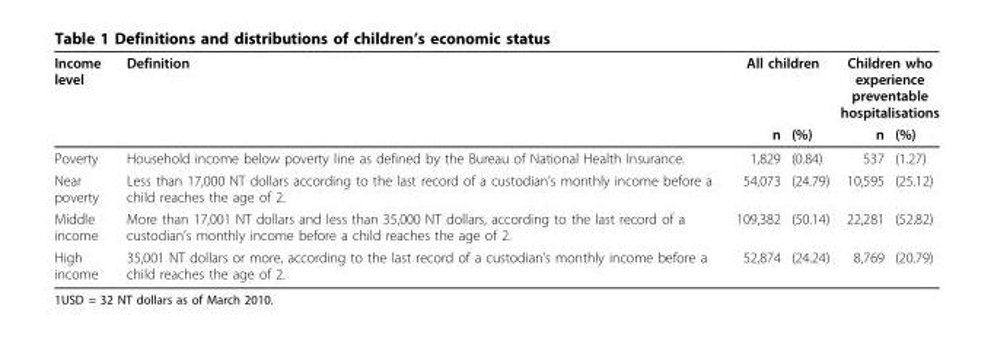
<table><thead><tr><td rowspan="2">Income level</td><td rowspan="2">Definition</td><td colspan="2">All children</td><td colspan="2">Children who experience preventable hospitalisations</td></tr><tr><td>n</td><td>(%)</td><td>n</td><td>(%)</td></tr></thead><tbody><tr><td>Poverty</td><td>Household income below poverty line as defined by the Bureau of National Health Insurance.</td><td>1,829</td><td>(0.84)</td><td>537</td><td>(1.27)</td></tr><tr><td>Near poverty</td><td>Less than 17,000 NT dollars according to the last record of a custodian’s monthly income before a child reaches the age of 2.</td><td>54,073</td><td>(24.79)</td><td>10,595</td><td>(25.12)</td></tr><tr><td>Middle income</td><td>More than 17,001 NT dollars and less than 35,000 NT dollars, according to the last record of a custodian’s monthly income before a child reaches the age of 2.</td><td>109,382</td><td>(50.14)</td><td>22,281</td><td>(52.82)</td></tr><tr><td>High income</td><td>35,001 NT dollars or more, according to the last record of a custodian’s monthly income before a child reaches the age of 2.</td><td>52,874</td><td>(24.24)</td><td>8,769</td><td>(20.79)</td></tr></tbody></table>